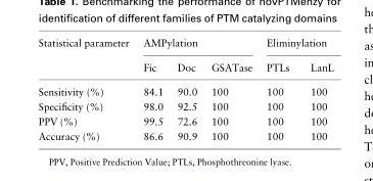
<table><thead><tr><td rowspan="2">Statistical parameter</td><td colspan="3">AMPylation</td><td colspan="2">Eliminylation</td></tr><tr><td>Fic</td><td>Doc</td><td>GSATase</td><td>PTLs</td><td>LanL</td></tr></thead><tbody><tr><td>Sensitivity (%)</td><td>84.1</td><td>90.0</td><td>100</td><td>100</td><td>100</td></tr><tr><td>Specificity (%)</td><td>98.0</td><td>92.5</td><td>100</td><td>100</td><td>100</td></tr><tr><td>PPV (%)</td><td>99.5</td><td>72.6</td><td>100</td><td>100</td><td>100</td></tr><tr><td>Accuracy (%)</td><td>86.6</td><td>90.9</td><td>100</td><td>100</td><td>100</td></tr></tbody></table>